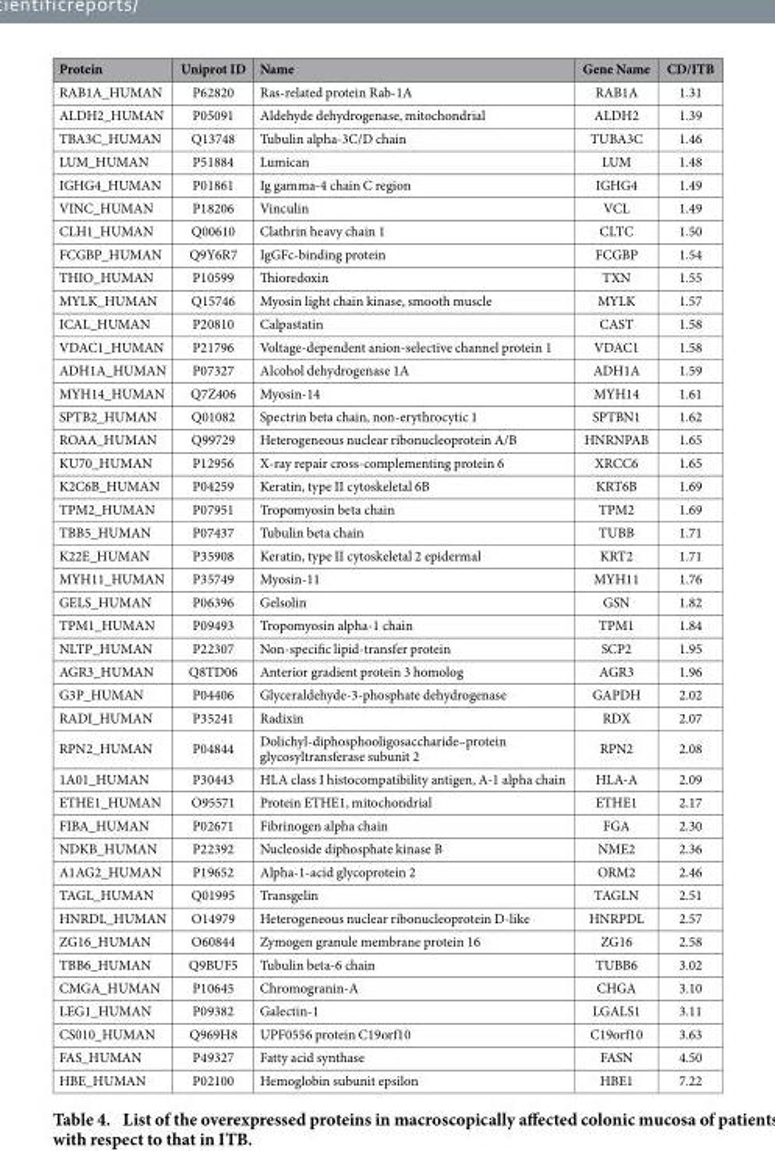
<table><thead><tr><td>Protein</td><td>Uniprot ID</td><td>Name</td><td>Gene Name</td><td>CD/ITB</td></tr></thead><tbody><tr><td>RAB1A_HUMAN</td><td>P62820</td><td>Ras-related protein Rab-1A</td><td>RAB1A</td><td>1.31</td></tr><tr><td>ALDH2_HUMAN</td><td>P05091</td><td>Aldehyde dehydrogenase, mitochondrial</td><td>ALDH2</td><td>1.39</td></tr><tr><td>TBA3C_HUMAN</td><td>Q13748</td><td>Tubulin alpha-3C/D chain</td><td>TUBA3C</td><td>1.46</td></tr><tr><td>LUM_HUMAN</td><td>P51884</td><td>Lumican</td><td>LUM</td><td>1.48</td></tr><tr><td>IGHG4_HUMAN</td><td>P01861</td><td>Ig gamma-4 chain C region</td><td>IGHG4</td><td>1.49</td></tr><tr><td>VINC_HUMAN</td><td>P18206</td><td>Vinculin</td><td>VCL</td><td>1.49</td></tr><tr><td>CLH1_HUMAN</td><td>Q00610</td><td>Clathrin heavy chain 1</td><td>CLTC</td><td>1.50</td></tr><tr><td>FCGBP_HUMAN</td><td>Q9Y6R7</td><td>IgGFc-binding protein</td><td>FCGBP</td><td>1.54</td></tr><tr><td>THIO_HUMAN</td><td>P10599</td><td>Thioredoxin</td><td>TXN</td><td>1.55</td></tr><tr><td>MYLK_HUMAN</td><td>Q15746</td><td>Myosin light chain kinase, smooth muscle</td><td>MYLK</td><td>1.57</td></tr><tr><td>ICAL_HUMAN</td><td>P20810</td><td>Calpastatin</td><td>CAST</td><td>1.58</td></tr><tr><td>VDAC1_HUMAN</td><td>P21796</td><td>Voltage-dependent anion-selective channel protein 1</td><td>VDAC1</td><td>1.58</td></tr><tr><td>ADH1A_HUMAN</td><td>P07327</td><td>Alcohol dehydrogenase 1A</td><td>ADH1A</td><td>1.59</td></tr><tr><td>MYH14_HUMAN</td><td>Q7Z406</td><td>Myosin-14</td><td>MYH14</td><td>1.61</td></tr><tr><td>SPTB2_HUMAN</td><td>Q01082</td><td>Spectrin beta chain, non-erythrocytic 1</td><td>SPTBN1</td><td>1.62</td></tr><tr><td>ROAA_HUMAN</td><td>Q99729</td><td>Heterogeneous nuclear ribonucleoprotein A/B</td><td>HNRNPAB</td><td>1.65</td></tr><tr><td>KU70_HUMAN</td><td>P12956</td><td>X-ray repair cross-complementing protein 6</td><td>XRCC6</td><td>1.65</td></tr><tr><td>K2C6B_HUMAN</td><td>P04259</td><td>Keratin, type II cytoskeletal 6B</td><td>KRT6B</td><td>1.69</td></tr><tr><td>TPM2_HUMAN</td><td>P07951</td><td>Tropomyosin beta chain</td><td>TPM2</td><td>1.69</td></tr><tr><td>TBB5_HUMAN</td><td>P07437</td><td>Tubulin beta chain</td><td>TUBB</td><td>1.71</td></tr><tr><td>K22E_HUMAN</td><td>P35908</td><td>Keratin, type II cytoskeletal 2 epidermal</td><td>KRT2</td><td>1.71</td></tr><tr><td>MYH11_HUMAN</td><td>P35749</td><td>Myosin-11</td><td>MYH11</td><td>1.76</td></tr><tr><td>GELS_HUMAN</td><td>P06396</td><td>Gelsolin</td><td>GSN</td><td>1.82</td></tr><tr><td>TPM1_HUMAN</td><td>P09493</td><td>Tropomyosin alpha-1 chain</td><td>TPM1</td><td>1.84</td></tr><tr><td>NLTP_HUMAN</td><td>P22307</td><td>Non-specific lipid-transfer protein</td><td>SCP2</td><td>1.95</td></tr><tr><td>AGR3_HUMAN</td><td>Q8TD06</td><td>Anterior gradient protein 3 homolog</td><td>AGR3</td><td>1.96</td></tr><tr><td>G3P_HUMAN</td><td>P04406</td><td>Glyceraldehyde-3-phosphate dehydrogenase</td><td>GAPDH</td><td>2.02</td></tr><tr><td>RADI_HUMAN</td><td>P35241</td><td>Radixin</td><td>RDX</td><td>2.07</td></tr><tr><td>RPN2_HUMAN</td><td>P04844</td><td>Dolichyl-diphosphooligosaccharide–protein glycosyltransferase subunit 2</td><td>RPN2</td><td>2.08</td></tr><tr><td>1A01_HUMAN</td><td>P30443</td><td>HLA class I histocompatibility antigen, A-1 alpha chain</td><td>HLA-A</td><td>2.09</td></tr><tr><td>ETHE1_HUMAN</td><td>O95571</td><td>Protein ETHE1, mitochondrial</td><td>ETHE1</td><td>2.17</td></tr><tr><td>FIBA_HUMAN</td><td>P02671</td><td>Fibrinogen alpha chain</td><td>FGA</td><td>2.30</td></tr><tr><td>NDKB_HUMAN</td><td>P22392</td><td>Nucleoside diphosphate kinase B</td><td>NME2</td><td>2.36</td></tr><tr><td>A1AG2_HUMAN</td><td>P19652</td><td>Alpha-1-acid glycoprotein 2</td><td>ORM2</td><td>2.46</td></tr><tr><td>TAGL_HUMAN</td><td>Q01995</td><td>Transgelin</td><td>TAGLN</td><td>2.51</td></tr><tr><td>HNRDL_HUMAN</td><td>O14979</td><td>Heterogeneous nuclear ribonucleoprotein D-like</td><td>HNRPDL</td><td>2.57</td></tr><tr><td>ZG16_HUMAN</td><td>O60844</td><td>Zymogen granule membrane protein 16</td><td>ZG16</td><td>2.58</td></tr><tr><td>TBB6_HUMAN</td><td>Q9BUF5</td><td>Tubulin beta-6 chain</td><td>TUBB6</td><td>3.02</td></tr><tr><td>CMGA_HUMAN</td><td>P10645</td><td>Chromogranin-A</td><td>CHGA</td><td>3.10</td></tr><tr><td>LEG1_HUMAN</td><td>P09382</td><td>Galectin-1</td><td>LGALS1</td><td>3.11</td></tr><tr><td>CS010_HUMAN</td><td>Q969H8</td><td>UPF0556 protein C19orf10</td><td>C19orf10</td><td>3.63</td></tr><tr><td>FAS_HUMAN</td><td>P49327</td><td>Fatty acid synthase</td><td>FASN</td><td>4.50</td></tr><tr><td>HBE_HUMAN</td><td>P02100</td><td>Hemoglobin subunit epsilon</td><td>HBE1</td><td>7.22</td></tr></tbody></table>